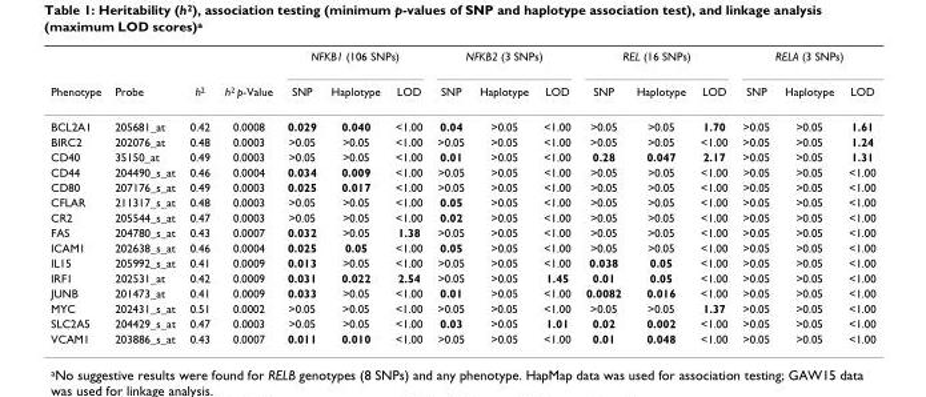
<table><thead><tr><td rowspan="2">Phenotype</td><td rowspan="2">Probe</td><td rowspan="2">h<sup>2</sup></td><td rowspan="2">h<sup>2</sup> p-Value</td><td colspan="3">NFKB1 (106 SNPs)</td><td colspan="3">NFKB2 (3 SNPs)</td><td colspan="3">REL (16 SNPs)</td><td colspan="3">RELA (3 SNPs)</td></tr><tr><td>SNP</td><td>Haplotype</td><td>LOD</td><td>SNP</td><td>Haplotype</td><td>LOD</td><td>SNP</td><td>Haplotype</td><td>LOD</td><td>SNP</td><td>Haplotype</td><td>LOD</td></tr></thead><tbody><tr><td>BCL2A1</td><td>205681_at</td><td>0.42</td><td>0.0008</td><td>0.029</td><td>0.040</td><td>&lt;1.00</td><td>0.04</td><td>&gt;0.05</td><td>&lt;1.00</td><td>&gt;0.05</td><td>&gt;0.05</td><td>1.70</td><td>&gt;0.05</td><td>&gt;0.05</td><td>1.61</td></tr><tr><td>BIRC2</td><td>202076_at</td><td>0.48</td><td>0.0003</td><td>&gt;0.05</td><td>&gt;0.05</td><td>&lt;1.00</td><td>&gt;0.05</td><td>&gt;0.05</td><td>&lt;1.00</td><td>&gt;0.05</td><td>&gt;0.05</td><td>&lt;1.00</td><td>&gt;0.05</td><td>&gt;0.05</td><td>1.24</td></tr><tr><td>CD40</td><td>35150_at</td><td>0.49</td><td>0.0003</td><td>&gt;0.05</td><td>&gt;0.05</td><td>&lt;1.00</td><td>0.01</td><td>&gt;0.05</td><td>&lt;1.00</td><td>0.28</td><td>0.047</td><td>2.17</td><td>&gt;0.05</td><td>&gt;0.05</td><td>1.31</td></tr><tr><td>CD44</td><td>204490_s_at</td><td>0.46</td><td>0.0004</td><td>0.034</td><td>0.009</td><td>&lt;1.00</td><td>&gt;0.05</td><td>&gt;0.05</td><td>&lt;1.00</td><td>&gt;0.05</td><td>&gt;0.05</td><td>&lt;1.00</td><td>&gt;0.05</td><td>&gt;0.05</td><td>&lt;1.00</td></tr><tr><td>CD80</td><td>207176_s_at</td><td>0.49</td><td>0.0003</td><td>0.025</td><td>0.017</td><td>&lt;1.00</td><td>&gt;0.05</td><td>&gt;0.05</td><td>&lt;1.00</td><td>&gt;0.05</td><td>&gt;0.05</td><td>&lt;1.00</td><td>&gt;0.05</td><td>&gt;0.05</td><td>&lt;1.00</td></tr><tr><td>CFLAR</td><td>211317_s_at</td><td>0.48</td><td>0.0003</td><td>&gt;0.05</td><td>&gt;0.05</td><td>&lt;1.00</td><td>0.05</td><td>&gt;0.05</td><td>&lt;1.00</td><td>&gt;0.05</td><td>&gt;0.05</td><td>&lt;1.00</td><td>&gt;0.05</td><td>&gt;0.05</td><td>&lt;1.00</td></tr><tr><td>CR2</td><td>205544_s_at</td><td>0.47</td><td>0.0003</td><td>&gt;0.05</td><td>&gt;0.05</td><td>&lt;1.00</td><td>0.02</td><td>&gt;0.05</td><td>&lt;1.00</td><td>&gt;0.05</td><td>&gt;0.05</td><td>&lt;1.00</td><td>&gt;0.05</td><td>&gt;0.05</td><td>&lt;1.00</td></tr><tr><td>FAS</td><td>204780_s_at</td><td>0.43</td><td>0.0007</td><td>0.032</td><td>&gt;0.05</td><td>1.38</td><td>&gt;0.05</td><td>&gt;0.05</td><td>&lt;1.00</td><td>&gt;0.05</td><td>&gt;0.05</td><td>&lt;1.00</td><td>&gt;0.05</td><td>&gt;0.05</td><td>&lt;1.00</td></tr><tr><td>ICAM1</td><td>202638_s_at</td><td>0.46</td><td>0.0004</td><td>0.025</td><td>0.05</td><td>&lt;1.00</td><td>0.05</td><td>&gt;0.05</td><td>&lt;1.00</td><td>&gt;0.05</td><td>&gt;0.05</td><td>&lt;1.00</td><td>&gt;0.05</td><td>&gt;0.05</td><td>&lt;1.00</td></tr><tr><td>IL15</td><td>205992_s_at</td><td>0.41</td><td>0.0009</td><td>0.013</td><td>&gt;0.05</td><td>&lt;1.00</td><td>&gt;0.05</td><td>&gt;0.05</td><td>&lt;1.00</td><td>0.038</td><td>0.05</td><td>&lt;1.00</td><td>&gt;0.05</td><td>&gt;0.05</td><td>&lt;1.00</td></tr><tr><td>IRF1</td><td>202531_at</td><td>0.42</td><td>0.0009</td><td>0.031</td><td>0.022</td><td>2.54</td><td>&gt;0.05</td><td>&gt;0.05</td><td>1.45</td><td>0.01</td><td>0.05</td><td>&lt;1.00</td><td>&gt;0.05</td><td>&gt;0.05</td><td>&lt;1.00</td></tr><tr><td>JUNB</td><td>201473_at</td><td>0.41</td><td>0.0009</td><td>0.033</td><td>&gt;0.05</td><td>&lt;1.00</td><td>0.01</td><td>&gt;0.05</td><td>&lt;1.00</td><td>0.0082</td><td>0.016</td><td>&lt;1.00</td><td>&gt;0.05</td><td>&gt;0.05</td><td>&lt;1.00</td></tr><tr><td>MYC</td><td>202431_s_at</td><td>0.51</td><td>0.0002</td><td>&gt;0.05</td><td>&gt;0.05</td><td>&lt;1.00</td><td>&gt;0.05</td><td>&gt;0.05</td><td>&lt;1.00</td><td>&gt;0.05</td><td>&gt;0.05</td><td>1.37</td><td>&gt;0.05</td><td>&gt;0.05</td><td>&lt;1.00</td></tr><tr><td>SLC2A5</td><td>204429_s_at</td><td>0.47</td><td>0.0003</td><td>&gt;0.05</td><td>&gt;0.05</td><td>&lt;1.00</td><td>0.03</td><td>&gt;0.05</td><td>1.01</td><td>0.02</td><td>0.002</td><td>&lt;1.00</td><td>&gt;0.05</td><td>&gt;0.05</td><td>&lt;1.00</td></tr><tr><td>VCAM1</td><td>203886_s_at</td><td>0.43</td><td>0.0007</td><td>0.011</td><td>0.010</td><td>&lt;1.00</td><td>&gt;0.05</td><td>&gt;0.05</td><td>&lt;1.00</td><td>0.01</td><td>0.048</td><td>&lt;1.00</td><td>&gt;0.05</td><td>&gt;0.05</td><td>&lt;1.00</td></tr></tbody></table>